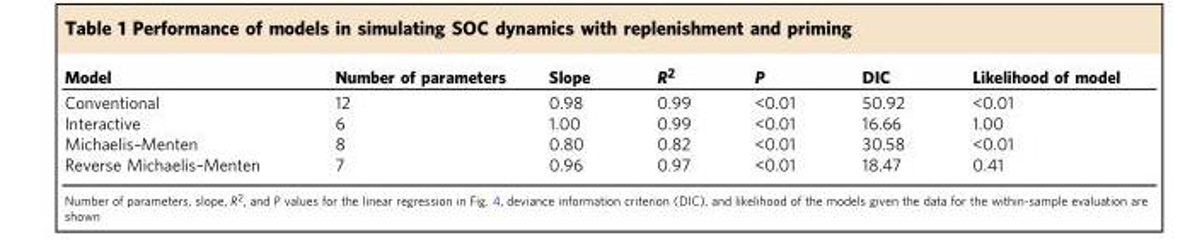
<table><thead><tr><td>Model</td><td>Number of parameters</td><td>Slope</td><td>R<sup>2</sup></td><td>P</td><td>DIC</td><td>Likelihood of model</td></tr></thead><tbody><tr><td>Conventional</td><td>12</td><td>0.98</td><td>0.99</td><td>&lt;0.01</td><td>50.92</td><td>&lt;0.01</td></tr><tr><td>Interactive</td><td>6</td><td>1.00</td><td>0.99</td><td>&lt;0.01</td><td>16.66</td><td>1.00</td></tr><tr><td>Michaelis–Menten</td><td>8</td><td>0.80</td><td>0.82</td><td>&lt;0.01</td><td>30.58</td><td>&lt;0.01</td></tr><tr><td>Reverse Michaelis–Menten</td><td>7</td><td>0.96</td><td>0.97</td><td>&lt;0.01</td><td>18.47</td><td>0.41</td></tr></tbody></table>